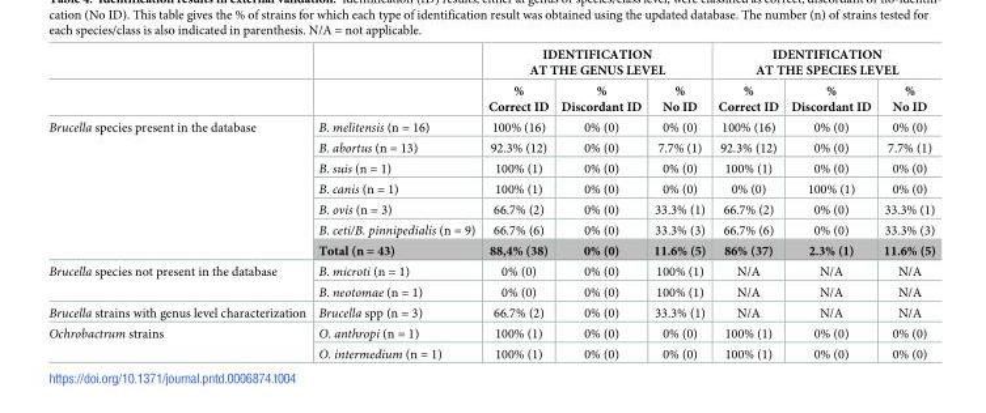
<table><thead><tr><td rowspan="2"></td><td rowspan="2"></td><td colspan="3">IDENTIFICATION AT THE GENUS LEVEL</td><td colspan="3">IDENTIFICATION AT THE SPECIES LEVEL</td></tr><tr><td>% Correct ID</td><td>% Discordant ID</td><td>% No ID</td><td>% Correct ID</td><td>% Discordant ID</td><td>% No ID</td></tr></thead><tbody><tr><td rowspan="7">Brucella species present in the database</td><td>B. melitensis (n = 16)</td><td>100% (16)</td><td>0% (0)</td><td>0% (0)</td><td>100% (16)</td><td>0% (0)</td><td>0% (0)</td></tr><tr><td>B. abortus (n = 13)</td><td>92.3% (12)</td><td>0% (0)</td><td>7.7% (1)</td><td>92.3% (12)</td><td>0% (0)</td><td>7.7% (1)</td></tr><tr><td>B. suis (n = 1)</td><td>100% (1)</td><td>0% (0)</td><td>0% (0)</td><td>100% (1)</td><td>0% (0)</td><td>0% (0)</td></tr><tr><td>B. canis (n = 1)</td><td>100% (1)</td><td>0% (0)</td><td>0% (0)</td><td>0% (0)</td><td>100% (1)</td><td>0% (0)</td></tr><tr><td>B. ovis (n = 3)</td><td>66.7% (2)</td><td>0% (0)</td><td>33.3% (1)</td><td>66.7% (2)</td><td>0% (0)</td><td>33.3% (1)</td></tr><tr><td>B. ceti/B. pinnipedialis (n = 9)</td><td>66.7% (6)</td><td>0% (0)</td><td>33.3% (3)</td><td>66.7% (6)</td><td>0% (0)</td><td>33.3% (3)</td></tr><tr><td>Total (n = 43)</td><td>88,4% (38)</td><td>0% (0)</td><td>11.6% (5)</td><td>86% (37)</td><td>2.3% (1)</td><td>11.6% (5)</td></tr><tr><td rowspan="2">Brucella species not present in the database</td><td>B. microti (n = 1)</td><td>0% (0)</td><td>0% (0)</td><td>100% (1)</td><td>N/A</td><td>N/A</td><td>N/A</td></tr><tr><td>B. neotomae (n = 1)</td><td>0% (0)</td><td>0% (0)</td><td>100% (1)</td><td>N/A</td><td>N/A</td><td>N/A</td></tr><tr><td>Brucella strains with genus level characterization</td><td>Brucella spp (n = 3)</td><td>66.7% (2)</td><td>0% (0)</td><td>33.3% (1)</td><td>N/A</td><td>N/A</td><td>N/A</td></tr><tr><td rowspan="2">Ochrobactrum strains</td><td>O. anthropi (n = 1)</td><td>100% (1)</td><td>0% (0)</td><td>0% (0)</td><td>100% (1)</td><td>0% (0)</td><td>0% (0)</td></tr><tr><td>O. intermedium (n = 1)</td><td>100% (1)</td><td>0% (0)</td><td>0% (0)</td><td>100% (1)</td><td>0% (0)</td><td>0% (0)</td></tr></tbody></table>